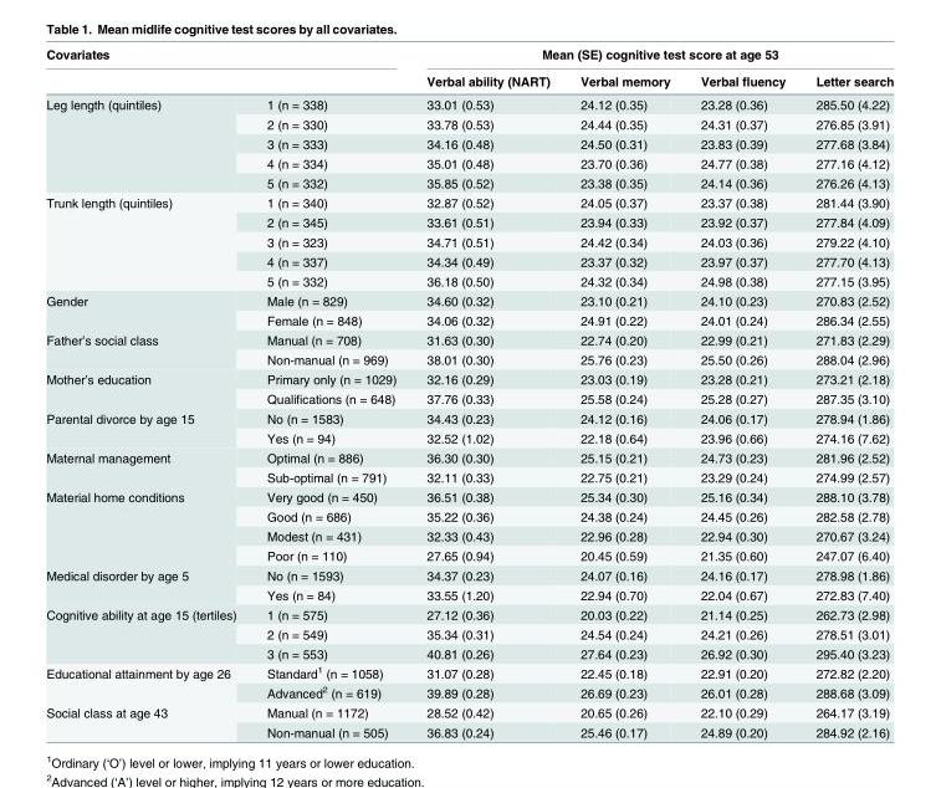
<table><thead><tr><td colspan="2">Covariates</td><td colspan="4">Mean (SE) cognitive test score at age 53</td></tr><tr><td></td><td></td><td>Verbal ability (NART)</td><td>Verbal memory</td><td>Verbal fluency</td><td>Letter search</td></tr></thead><tbody><tr><td rowspan="5">Leg length (quintiles)</td><td>1 (n = 338)</td><td>33.01 (0.53)</td><td>24.12 (0.35)</td><td>23.28 (0.36)</td><td>285.50 (4.22)</td></tr><tr><td>2 (n = 330)</td><td>33.78 (0.53)</td><td>24.44 (0.35)</td><td>24.31 (0.37)</td><td>276.85 (3.91)</td></tr><tr><td>3 (n = 333)</td><td>34.16 (0.48)</td><td>24.50 (0.31)</td><td>23.83 (0.39)</td><td>277.68 (3.84)</td></tr><tr><td>4 (n = 334)</td><td>35.01 (0.48)</td><td>23.70 (0.36)</td><td>24.77 (0.38)</td><td>277.16 (4.12)</td></tr><tr><td>5 (n = 332)</td><td>35.85 (0.52)</td><td>23.38 (0.35)</td><td>24.14 (0.36)</td><td>276.26 (4.13)</td></tr><tr><td rowspan="5">Trunk length (quintiles)</td><td>1 (n = 340)</td><td>32.87 (0.52)</td><td>24.05 (0.37)</td><td>23.37 (0.38)</td><td>281.44 (3.90)</td></tr><tr><td>2 (n = 345)</td><td>33.61 (0.51)</td><td>23.94 (0.33)</td><td>23.92 (0.37)</td><td>277.84 (4.09)</td></tr><tr><td>3 (n = 323)</td><td>34.71 (0.51)</td><td>24.42 (0.34)</td><td>24.03 (0.36)</td><td>279.22 (4.10)</td></tr><tr><td>4 (n = 337)</td><td>34.34 (0.49)</td><td>23.37 (0.32)</td><td>23.97 (0.37)</td><td>277.70 (4.13)</td></tr><tr><td>5 (n = 332)</td><td>36.18 (0.50)</td><td>24.32 (0.34)</td><td>24.98 (0.38)</td><td>277.15 (3.95)</td></tr><tr><td rowspan="2">Gender</td><td>Male (n = 829)</td><td>34.60 (0.32)</td><td>23.10 (0.21)</td><td>24.10 (0.23)</td><td>270.83 (2.52)</td></tr><tr><td>Female (n = 848)</td><td>34.06 (0.32)</td><td>24.91 (0.22)</td><td>24.01 (0.24)</td><td>286.34 (2.55)</td></tr><tr><td rowspan="2">Father’s social class</td><td>Manual (n = 708)</td><td>31.63 (0.30)</td><td>22.74 (0.20)</td><td>22.99 (0.21)</td><td>271.83 (2.29)</td></tr><tr><td>Non-manual (n = 969)</td><td>38.01 (0.30)</td><td>25.76 (0.23)</td><td>25.50 (0.26)</td><td>288.04 (2.96)</td></tr><tr><td rowspan="2">Mother’s education</td><td>Primary only (n = 1029)</td><td>32.16 (0.29)</td><td>23.03 (0.19)</td><td>23.28 (0.21)</td><td>273.21 (2.18)</td></tr><tr><td>Qualifications (n = 648)</td><td>37.76 (0.33)</td><td>25.58 (0.24)</td><td>25.28 (0.27)</td><td>287.35 (3.10)</td></tr><tr><td rowspan="2">Parental divorce by age 15</td><td>No (n = 1583)</td><td>34.43 (0.23)</td><td>24.12 (0.16)</td><td>24.06 (0.17)</td><td>278.94 (1.86)</td></tr><tr><td>Yes (n = 94)</td><td>32.52 (1.02)</td><td>22.18 (0.64)</td><td>23.96 (0.66)</td><td>274.16 (7.62)</td></tr><tr><td rowspan="2">Maternal management</td><td>Optimal (n = 886)</td><td>36.30 (0.30)</td><td>25.15 (0.21)</td><td>24.73 (0.23)</td><td>281.96 (2.52)</td></tr><tr><td>Sub-optimal (n = 791)</td><td>32.11 (0.33)</td><td>22.75 (0.21)</td><td>23.29 (0.24)</td><td>274.99 (2.57)</td></tr><tr><td rowspan="4">Material home conditions</td><td>Very good (n = 450)</td><td>36.51 (0.38)</td><td>25.34 (0.30)</td><td>25.16 (0.34)</td><td>288.10 (3.78)</td></tr><tr><td>Good (n = 686)</td><td>35.22 (0.36)</td><td>24.38 (0.24)</td><td>24.45 (0.26)</td><td>282.58 (2.78)</td></tr><tr><td>Modest (n = 431)</td><td>32.33 (0.43)</td><td>22.96 (0.28)</td><td>22.94 (0.30)</td><td>270.67 (3.24)</td></tr><tr><td>Poor (n = 110)</td><td>27.65 (0.94)</td><td>20.45 (0.59)</td><td>21.35 (0.60)</td><td>247.07 (6.40)</td></tr><tr><td rowspan="2">Medical disorder by age 5</td><td>No (n = 1593)</td><td>34.37 (0.23)</td><td>24.07 (0.16)</td><td>24.16 (0.17)</td><td>278.98 (1.86)</td></tr><tr><td>Yes (n = 84)</td><td>33.55 (1.20)</td><td>22.94 (0.70)</td><td>22.04 (0.67)</td><td>272.83 (7.40)</td></tr><tr><td rowspan="3">Cognitive ability at age 15 (tertiles)</td><td>1 (n = 575)</td><td>27.12 (0.36)</td><td>20.03 (0.22)</td><td>21.14 (0.25)</td><td>262.73 (2.98)</td></tr><tr><td>2 (n = 549)</td><td>35.34 (0.31)</td><td>24.54 (0.24)</td><td>24.21 (0.26)</td><td>278.51 (3.01)</td></tr><tr><td>3 (n = 553)</td><td>40.81 (0.26)</td><td>27.64 (0.23)</td><td>26.92 (0.30)</td><td>295.40 (3.23)</td></tr><tr><td rowspan="2">Educational attainment by age 26</td><td>Standard<sup>1</sup> (n = 1058)</td><td>31.07 (0.28)</td><td>22.45 (0.18)</td><td>22.91 (0.20)</td><td>272.82 (2.20)</td></tr><tr><td>Advanced<sup>2</sup> (n = 619)</td><td>39.89 (0.28)</td><td>26.69 (0.23)</td><td>26.01 (0.28)</td><td>288.68 (3.09)</td></tr><tr><td rowspan="2">Social class at age 43</td><td>Manual (n = 1172)</td><td>28.52 (0.42)</td><td>20.65 (0.26)</td><td>22.10 (0.29)</td><td>264.17 (3.19)</td></tr><tr><td>Non-manual (n = 505)</td><td>36.83 (0.24)</td><td>25.46 (0.17)</td><td>24.89 (0.20)</td><td>284.92 (2.16)</td></tr></tbody></table>